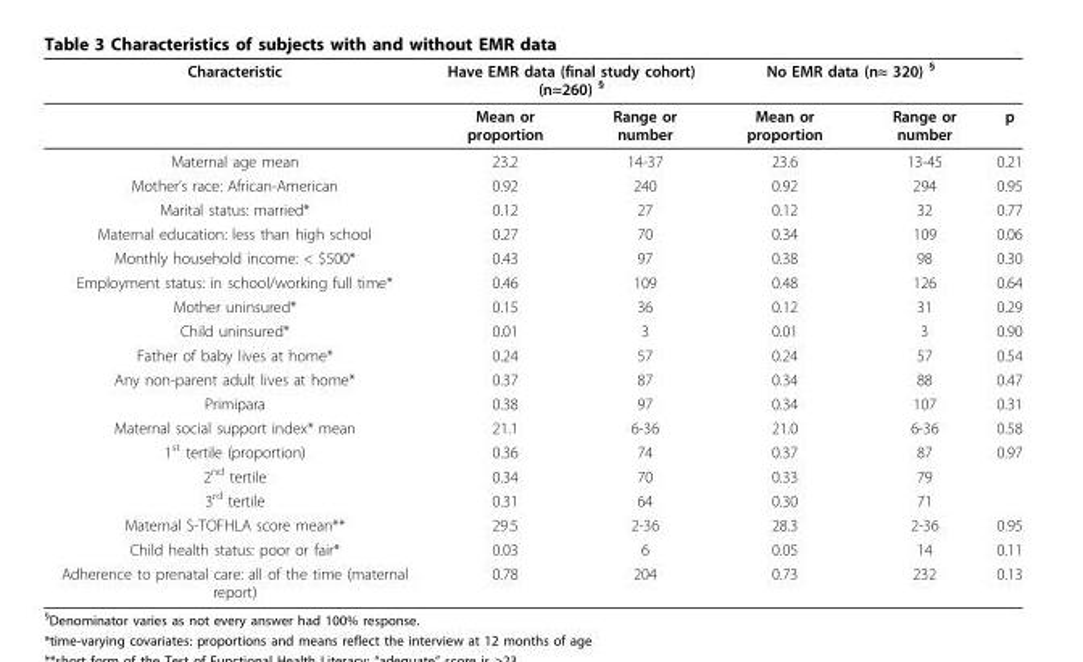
<table><thead><tr><td rowspan="2">Characteristic</td><td colspan="2">Have EMR data (final study cohort) (n≈260) <sup>§</sup></td><td colspan="2">No EMR data (n≈ 320) <sup>§</sup></td><td rowspan="2">p</td></tr><tr><td>Mean or proportion</td><td>Range or number</td><td>Mean or proportion</td><td>Range or number</td></tr></thead><tbody><tr><td>Maternal age mean</td><td>23.2</td><td>14-37</td><td>23.6</td><td>13-45</td><td>0.21</td></tr><tr><td>Mother’s race: African-American</td><td>0.92</td><td>240</td><td>0.92</td><td>294</td><td>0.95</td></tr><tr><td>Marital status: married*</td><td>0.12</td><td>27</td><td>0.12</td><td>32</td><td>0.77</td></tr><tr><td>Maternal education: less than high school</td><td>0.27</td><td>70</td><td>0.34</td><td>109</td><td>0.06</td></tr><tr><td>Monthly household income: &lt; $500*</td><td>0.43</td><td>97</td><td>0.38</td><td>98</td><td>0.30</td></tr><tr><td>Employment status: in school/working full time*</td><td>0.46</td><td>109</td><td>0.48</td><td>126</td><td>0.64</td></tr><tr><td>Mother uninsured*</td><td>0.15</td><td>36</td><td>0.12</td><td>31</td><td>0.29</td></tr><tr><td>Child uninsured*</td><td>0.01</td><td>3</td><td>0.01</td><td>3</td><td>0.90</td></tr><tr><td>Father of baby lives at home*</td><td>0.24</td><td>57</td><td>0.24</td><td>57</td><td>0.54</td></tr><tr><td>Any non-parent adult lives at home*</td><td>0.37</td><td>87</td><td>0.34</td><td>88</td><td>0.47</td></tr><tr><td>Primipara</td><td>0.38</td><td>97</td><td>0.34</td><td>107</td><td>0.31</td></tr><tr><td>Maternal social support index* mean</td><td>21.1</td><td>6-36</td><td>21.0</td><td>6-36</td><td>0.58</td></tr><tr><td>1<sup>st</sup> tertile (proportion)</td><td>0.36</td><td>74</td><td>0.37</td><td>87</td><td>0.97</td></tr><tr><td>2<sup>nd</sup> tertile</td><td>0.34</td><td>70</td><td>0.33</td><td>79</td><td></td></tr><tr><td>3<sup>rd</sup> tertile</td><td>0.31</td><td>64</td><td>0.30</td><td>71</td><td></td></tr><tr><td>Maternal S-TOFHLA score mean**</td><td>29.5</td><td>2-36</td><td>28.3</td><td>2-36</td><td>0.95</td></tr><tr><td>Child health status: poor or fair*</td><td>0.03</td><td>6</td><td>0.05</td><td>14</td><td>0.11</td></tr><tr><td>Adherence to prenatal care: all of the time (maternal report)</td><td>0.78</td><td>204</td><td>0.73</td><td>232</td><td>0.13</td></tr></tbody></table>